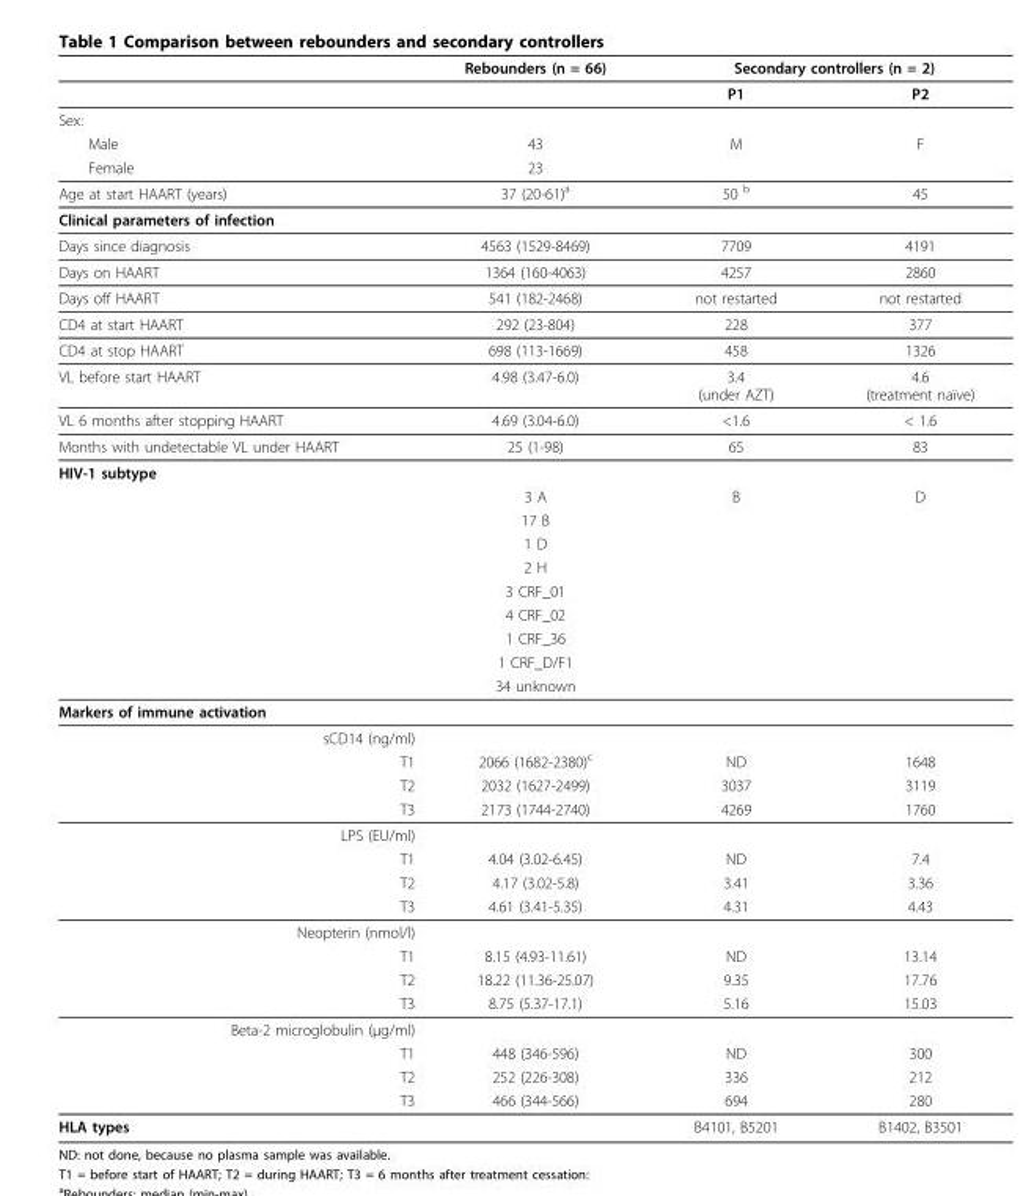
<table><thead><tr><td rowspan="2"></td><td rowspan="2">Rebounders (n = 66)</td><td colspan="2">Secondary controllers (n = 2)</td></tr><tr><td>P1</td><td>P2</td></tr></thead><tbody><tr><td colspan="4">Sex:</td></tr><tr><td>Male</td><td>43</td><td>M</td><td>F</td></tr><tr><td>Female</td><td>23</td><td></td><td></td></tr><tr><td>Age at start HAART (years)</td><td>37 (20-61)<sup>a</sup></td><td>50 <sup>b</sup></td><td>45</td></tr><tr><td colspan="4">Clinical parameters of infection</td></tr><tr><td>Days since diagnosis</td><td>4563 (1529-8469)</td><td>7709</td><td>4191</td></tr><tr><td>Days on HAART</td><td>1364 (160-4063)</td><td>4257</td><td>2860</td></tr><tr><td>Days off HAART</td><td>541 (182-2468)</td><td>not restarted</td><td>not restarted</td></tr><tr><td>CD4 at start HAART</td><td>292 (23-804)</td><td>228</td><td>377</td></tr><tr><td>CD4 at stop HAART</td><td>698 (113-1669)</td><td>458</td><td>1326</td></tr><tr><td>VL before start HAART</td><td>4.98 (3.47-6.0)</td><td>3.4 (under AZT)</td><td>4.6 (treatment naïve)</td></tr><tr><td>VL 6 months after stopping HAART</td><td>4.69 (3.04-6.0)</td><td>&lt;1.6</td><td>&lt; 1.6</td></tr><tr><td>Months with undetectable VL under HAART</td><td>25 (1-98)</td><td>65</td><td>83</td></tr><tr><td colspan="4">HIV-1 subtype</td></tr><tr><td></td><td>3 A</td><td>B</td><td>D</td></tr><tr><td></td><td>17 B</td><td></td><td></td></tr><tr><td></td><td>1 D</td><td></td><td></td></tr><tr><td></td><td>2 H</td><td></td><td></td></tr><tr><td></td><td>3 CRF_01</td><td></td><td></td></tr><tr><td></td><td>4 CRF_02</td><td></td><td></td></tr><tr><td></td><td>1 CRF_36</td><td></td><td></td></tr><tr><td></td><td>1 CRF_D/F1</td><td></td><td></td></tr><tr><td></td><td>34 unknown</td><td></td><td></td></tr><tr><td colspan="4">Markers of immune activation</td></tr><tr><td colspan="4">sCD14 (ng/ml)</td></tr><tr><td>T1</td><td>2066 (1682-2380)<sup>c</sup></td><td>ND</td><td>1648</td></tr><tr><td>T2</td><td>2032 (1627-2499)</td><td>3037</td><td>3119</td></tr><tr><td>T3</td><td>2173 (1744-2740)</td><td>4269</td><td>1760</td></tr><tr><td colspan="4">LPS (EU/ml)</td></tr><tr><td>T1</td><td>4.04 (3.02-6.45)</td><td>ND</td><td>7.4</td></tr><tr><td>T2</td><td>4.17 (3.02-5.8)</td><td>3.41</td><td>3.36</td></tr><tr><td>T3</td><td>4.61 (3.41-5.35)</td><td>4.31</td><td>4.43</td></tr><tr><td colspan="4">Neopterin (nmol/l)</td></tr><tr><td>T1</td><td>8.15 (4.93-11.61)</td><td>ND</td><td>13.14</td></tr><tr><td>T2</td><td>18.22 (11.36-25.07)</td><td>9.35</td><td>17.76</td></tr><tr><td>T3</td><td>8.75 (5.37-17.1)</td><td>5.16</td><td>15.03</td></tr><tr><td colspan="4">Beta-2 microglobulin (μg/ml)</td></tr><tr><td>T1</td><td>448 (346-596)</td><td>ND</td><td>300</td></tr><tr><td>T2</td><td>252 (226-308)</td><td>336</td><td>212</td></tr><tr><td>T3</td><td>466 (344-566)</td><td>694</td><td>280</td></tr><tr><td>HLA types</td><td></td><td>B4101, B5201</td><td>B1402, B3501</td></tr></tbody></table>